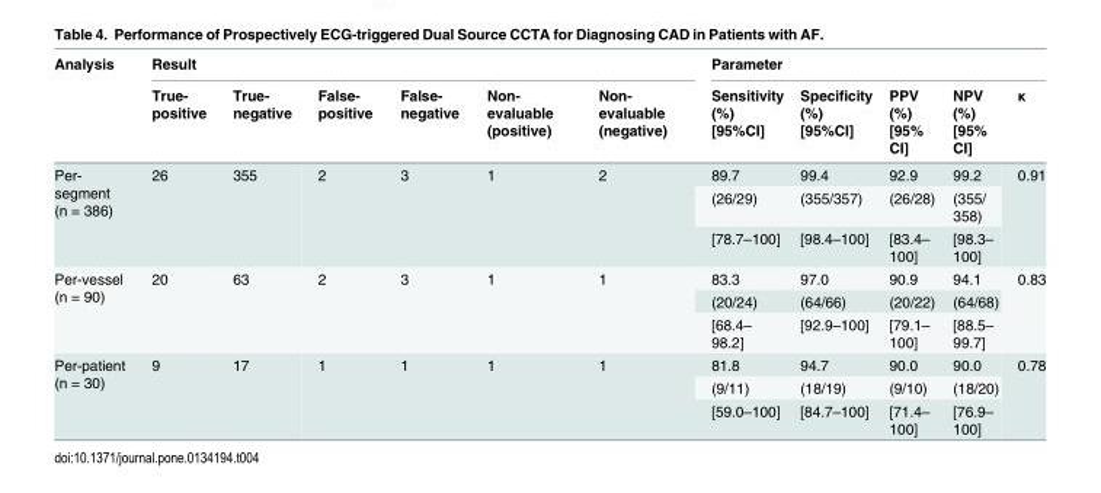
<table><thead><tr><td rowspan="4">Analysis</td><td colspan="6">Result</td><td colspan="5">Parameter</td></tr><tr><td rowspan="3">True- positive</td><td rowspan="3">True- negative</td><td rowspan="3">False- positive</td><td rowspan="3">False- negative</td><td rowspan="3">Non- evaluable (positive)</td><td rowspan="3">Non- evaluable (negative)</td><td rowspan="3">Sensitivity (%) [95%CI]</td><td rowspan="3">Specificity (%) [95%CI]</td><td rowspan="3">PPV (%) [95% CI]</td><td rowspan="3">NPV (%) [95% CI]</td><td rowspan="3">κ</td></tr><tr></tr><tr></tr></thead><tbody><tr><td rowspan="3">Per- segment (n = 386)</td><td rowspan="3">26</td><td rowspan="3">355</td><td rowspan="3">2</td><td rowspan="3">3</td><td rowspan="3">1</td><td rowspan="3">2</td><td>89.7</td><td>99.4</td><td>92.9</td><td>99.2</td><td rowspan="3">0.91</td></tr><tr><td>(26/29)</td><td>(355/357)</td><td>(26/28)</td><td>(355/ 358)</td></tr><tr><td>[78.7–100]</td><td>[98.4–100]</td><td>[83.4– 100]</td><td>[98.3– 100]</td></tr><tr><td rowspan="3">Per-vessel (n = 90)</td><td rowspan="3">20</td><td rowspan="3">63</td><td rowspan="3">2</td><td rowspan="3">3</td><td rowspan="3">1</td><td rowspan="3">1</td><td>83.3</td><td>97.0</td><td>90.9</td><td>94.1</td><td rowspan="3">0.83</td></tr><tr><td>(20/24)</td><td>(64/66)</td><td>(20/22)</td><td>(64/68)</td></tr><tr><td>[68.4– 98.2]</td><td>[92.9–100]</td><td>[79.1– 100]</td><td>[88.5– 99.7]</td></tr><tr><td rowspan="3">Per-patient (n = 30)</td><td rowspan="3">9</td><td rowspan="3">17</td><td rowspan="3">1</td><td rowspan="3">1</td><td rowspan="3">1</td><td rowspan="3">1</td><td>81.8</td><td>94.7</td><td>90.0</td><td>90.0</td><td rowspan="3">0.78</td></tr><tr><td>(9/11)</td><td>(18/19)</td><td>(9/10)</td><td>(18/20)</td></tr><tr><td>[59.0–100]</td><td>[84.7–100]</td><td>[71.4– 100]</td><td>[76.9– 100]</td></tr></tbody></table>